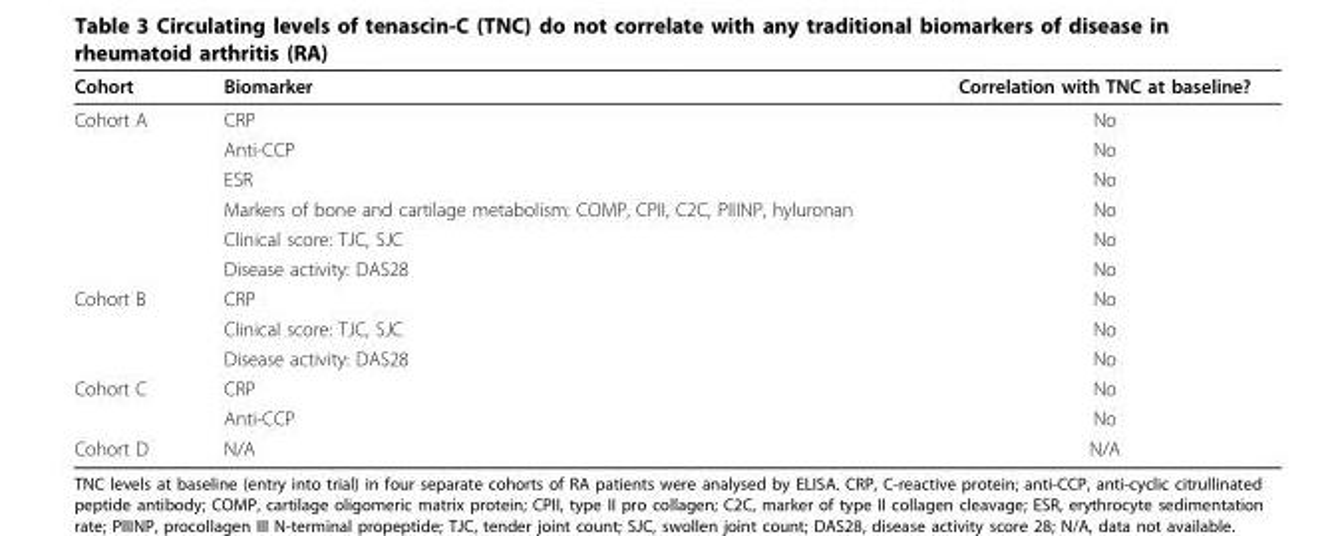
<table><thead><tr><td>Cohort</td><td>Biomarker</td><td>Correlation with TNC at baseline?</td></tr></thead><tbody><tr><td rowspan="6">Cohort A</td><td>CRP</td><td>No</td></tr><tr><td>Anti-CCP</td><td>No</td></tr><tr><td>ESR</td><td>No</td></tr><tr><td>Markers of bone and cartilage metabolism: COMP, CPII, C2C, PIIINP, hyluronan</td><td>No</td></tr><tr><td>Clinical score: TJC, SJC</td><td>No</td></tr><tr><td>Disease activity: DAS28</td><td>No</td></tr><tr><td rowspan="3">Cohort B</td><td>CRP</td><td>No</td></tr><tr><td>Clinical score: TJC, SJC</td><td>No</td></tr><tr><td>Disease activity: DAS28</td><td>No</td></tr><tr><td rowspan="2">Cohort C</td><td>CRP</td><td>No</td></tr><tr><td>Anti-CCP</td><td>No</td></tr><tr><td>Cohort D</td><td>N/A</td><td>N/A</td></tr></tbody></table>